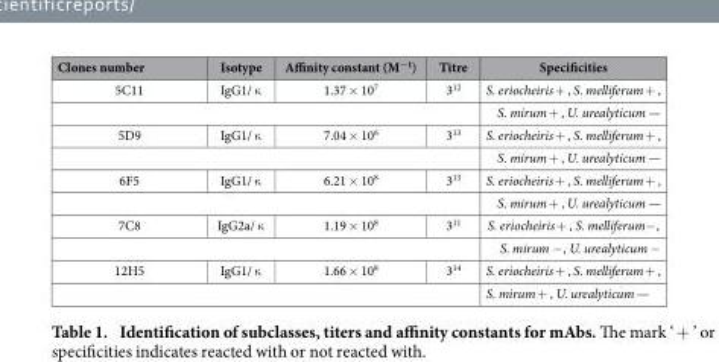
<table><thead><tr><td>Clones number</td><td>Isotype</td><td>Affinity constant (M<sup>−1</sup>)</td><td>Titre</td><td>Specificities</td></tr></thead><tbody><tr><td>5C11</td><td>IgG1/ κ</td><td>1.37 × 10<sup>7</sup></td><td>3<sup>12</sup></td><td>S. eriocheiris + , S. melliferum + ,</td></tr><tr><td colspan="4"></td><td>S. mirum + , U. urealyticum —</td></tr><tr><td>5D9</td><td>IgG1/ κ</td><td>7.04 × 10<sup>6</sup></td><td>3<sup>13</sup></td><td>S. eriocheiris + , S. melliferum + ,</td></tr><tr><td colspan="4"></td><td>S. mirum + , U. urealyticum —</td></tr><tr><td>6F5</td><td>IgG1/ κ</td><td>6.21 × 10<sup>8</sup></td><td>3<sup>13</sup></td><td>S. eriocheiris + , S. melliferum + ,</td></tr><tr><td colspan="4"></td><td>S. mirum + , U. urealyticum —</td></tr><tr><td>7C8</td><td>IgG2a/ κ</td><td>1.19 × 10<sup>8</sup></td><td>3<sup>11</sup></td><td>S. eriocheiris + , S. melliferum− ,</td></tr><tr><td colspan="4"></td><td>S. mirum − , U. urealyticum −</td></tr><tr><td>12H5</td><td>IgG1/ κ</td><td>1.66 × 10<sup>8</sup></td><td>3<sup>14</sup></td><td>S. eriocheiris + , S. melliferum + ,</td></tr><tr><td colspan="4"></td><td>S. mirum + , U. urealyticum —</td></tr></tbody></table>